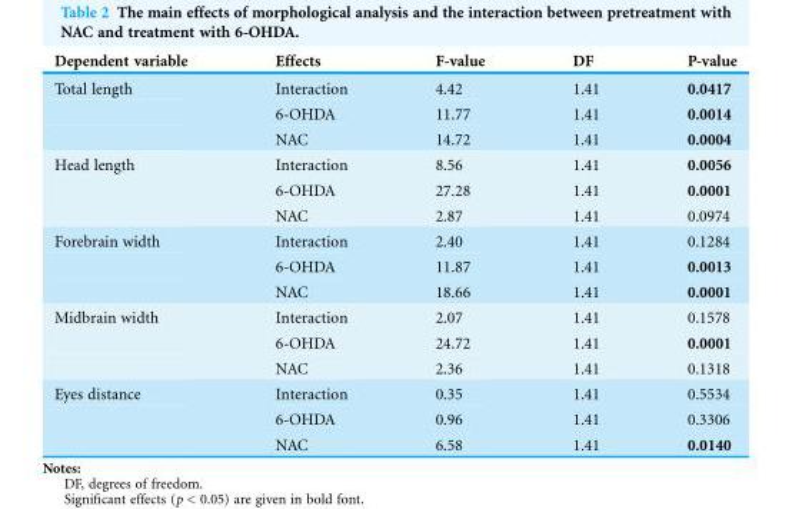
<table><thead><tr><td>Dependent variable</td><td>Effects</td><td>F-value</td><td>DF</td><td>P-value</td></tr></thead><tbody><tr><td rowspan="3">Total length</td><td>Interaction</td><td>4.42</td><td>1.41</td><td>0.0417</td></tr><tr><td>6-OHDA</td><td>11.77</td><td>1.41</td><td>0.0014</td></tr><tr><td>NAC</td><td>14.72</td><td>1.41</td><td>0.0004</td></tr><tr><td rowspan="3">Head length</td><td>Interaction</td><td>8.56</td><td>1.41</td><td>0.0056</td></tr><tr><td>6-OHDA</td><td>27.28</td><td>1.41</td><td>0.0001</td></tr><tr><td>NAC</td><td>2.87</td><td>1.41</td><td>0.0974</td></tr><tr><td rowspan="3">Forebrain width</td><td>Interaction</td><td>2.40</td><td>1.41</td><td>0.1284</td></tr><tr><td>6-OHDA</td><td>11.87</td><td>1.41</td><td>0.0013</td></tr><tr><td>NAC</td><td>18.66</td><td>1.41</td><td>0.0001</td></tr><tr><td rowspan="3">Midbrain width</td><td>Interaction</td><td>2.07</td><td>1.41</td><td>0.1578</td></tr><tr><td>6-OHDA</td><td>24.72</td><td>1.41</td><td>0.0001</td></tr><tr><td>NAC</td><td>2.36</td><td>1.41</td><td>0.1318</td></tr><tr><td rowspan="3">Eyes distance</td><td>Interaction</td><td>0.35</td><td>1.41</td><td>0.5534</td></tr><tr><td>6-OHDA</td><td>0.96</td><td>1.41</td><td>0.3306</td></tr><tr><td>NAC</td><td>6.58</td><td>1.41</td><td>0.0140</td></tr></tbody></table>